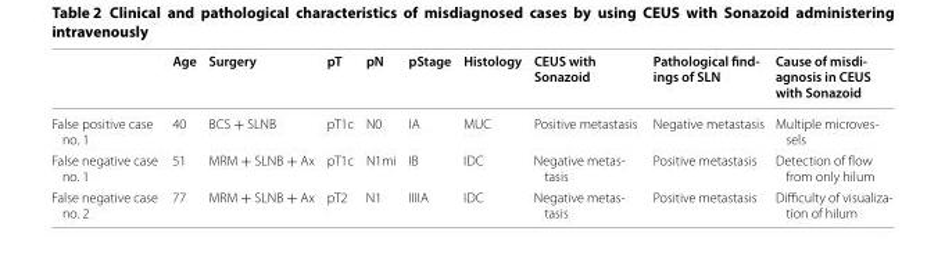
<table><thead><tr><td></td><td>Age</td><td>Surgery</td><td>pT</td><td>pN</td><td>pStage</td><td>Histology</td><td>CEUS with Sonazoid</td><td>Pathological find- ings of SLN</td><td>Cause of misdi- agnosis in CEUS with Sonazoid</td></tr></thead><tbody><tr><td>False positive case no. 1</td><td>40</td><td>BCS + SLNB</td><td>pT1c</td><td>N0</td><td>IA</td><td>MUC</td><td>Positive metastasis</td><td>Negative metastasis</td><td>Multiple microves- sels</td></tr><tr><td>False negative case no. 1</td><td>51</td><td>MRM + SLNB + Ax</td><td>pT1c</td><td>N1mi</td><td>IB</td><td>IDC</td><td>Negative metas- tasis</td><td>Positive metastasis</td><td>Detection of flow from only hilum</td></tr><tr><td>False negative case no. 2</td><td>77</td><td>MRM + SLNB + Ax</td><td>pT2</td><td>N1</td><td>IIIIA</td><td>IDC</td><td>Negative metas- tasis</td><td>Positive metastasis</td><td>Difficulty of visualiza- tion of hilum</td></tr></tbody></table>